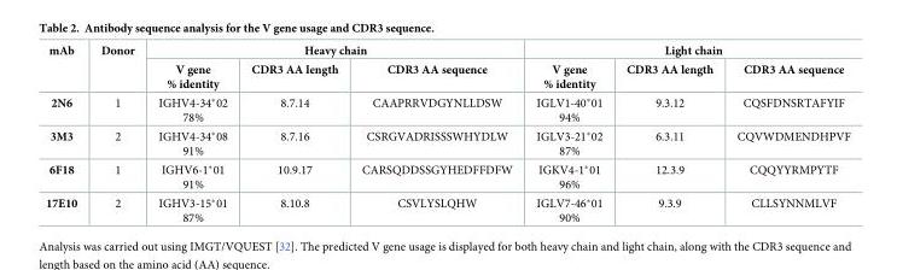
<table><thead><tr><td rowspan="2">mAb</td><td rowspan="2">Donor</td><td colspan="3">Heavy chain</td><td colspan="3">Light chain</td></tr><tr><td>V gene % identity</td><td>CDR3 AA length</td><td>CDR3 AA sequence</td><td>V gene % identity</td><td>CDR3 AA length</td><td>CDR3 AA sequence</td></tr></thead><tbody><tr><td>2N6</td><td>1</td><td>IGHV4-34*02 78%</td><td>8.7.14</td><td>CAAPRRVDGYNLLDSW</td><td>IGLV1-40*01 94%</td><td>9.3.12</td><td>CQSFDNSRTAFYIF</td></tr><tr><td>3M3</td><td>2</td><td>IGHV4-34*08 91%</td><td>8.7.16</td><td>CSRGVADRISSSWHYDLW</td><td>IGLV3-21*02 87%</td><td>6.3.11</td><td>CQVWDMENDHPVF</td></tr><tr><td>6F18</td><td>1</td><td>IGHV6-1*01 91%</td><td>10.9.17</td><td>CARSQDDSSGYHEDFFDFW</td><td>IGKV4-1*01 96%</td><td>12.3.9</td><td>CQQYYRMPYTF</td></tr><tr><td>17E10</td><td>2</td><td>IGHV3-15*01 87%</td><td>8.10.8</td><td>CSVLYSLQHW</td><td>IGLV7-46*01 90%</td><td>9.3.9</td><td>CLLSYNNMLVF</td></tr></tbody></table>